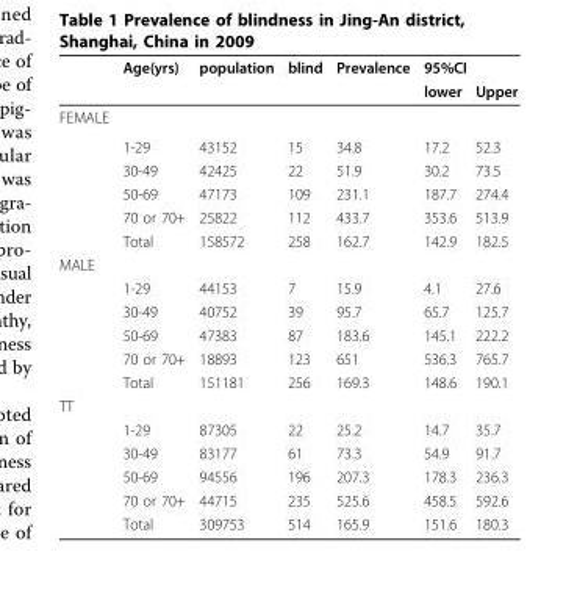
<table><thead><tr><td rowspan="2"></td><td rowspan="2">Age(yrs)</td><td rowspan="2">population</td><td rowspan="2">blind</td><td rowspan="2">Prevalence</td><td colspan="2">95%CI</td></tr><tr><td>lower</td><td>Upper</td></tr></thead><tbody><tr><td colspan="7">FEMALE</td></tr><tr><td></td><td>1-29</td><td>43152</td><td>15</td><td>34.8</td><td>17.2</td><td>52.3</td></tr><tr><td></td><td>30-49</td><td>42425</td><td>22</td><td>51.9</td><td>30.2</td><td>73.5</td></tr><tr><td></td><td>50-69</td><td>47173</td><td>109</td><td>231.1</td><td>187.7</td><td>274.4</td></tr><tr><td></td><td>70 or 70+</td><td>25822</td><td>112</td><td>433.7</td><td>353.6</td><td>513.9</td></tr><tr><td></td><td>Total</td><td>158572</td><td>258</td><td>162.7</td><td>142.9</td><td>182.5</td></tr><tr><td colspan="7">MALE</td></tr><tr><td></td><td>1-29</td><td>44153</td><td>7</td><td>15.9</td><td>4.1</td><td>27.6</td></tr><tr><td></td><td>30-49</td><td>40752</td><td>39</td><td>95.7</td><td>65.7</td><td>125.7</td></tr><tr><td></td><td>50-69</td><td>47383</td><td>87</td><td>183.6</td><td>145.1</td><td>222.2</td></tr><tr><td></td><td>70 or 70+</td><td>18893</td><td>123</td><td>651</td><td>536.3</td><td>765.7</td></tr><tr><td></td><td>Total</td><td>151181</td><td>256</td><td>169.3</td><td>148.6</td><td>190.1</td></tr><tr><td colspan="7">TT</td></tr><tr><td></td><td>1-29</td><td>87305</td><td>22</td><td>25.2</td><td>14.7</td><td>35.7</td></tr><tr><td></td><td>30-49</td><td>83177</td><td>61</td><td>73.3</td><td>54.9</td><td>91.7</td></tr><tr><td></td><td>50-69</td><td>94556</td><td>196</td><td>207.3</td><td>178.3</td><td>236.3</td></tr><tr><td></td><td>70 or 70+</td><td>44715</td><td>235</td><td>525.6</td><td>458.5</td><td>592.6</td></tr><tr><td></td><td>Total</td><td>309753</td><td>514</td><td>165.9</td><td>151.6</td><td>180.3</td></tr></tbody></table>